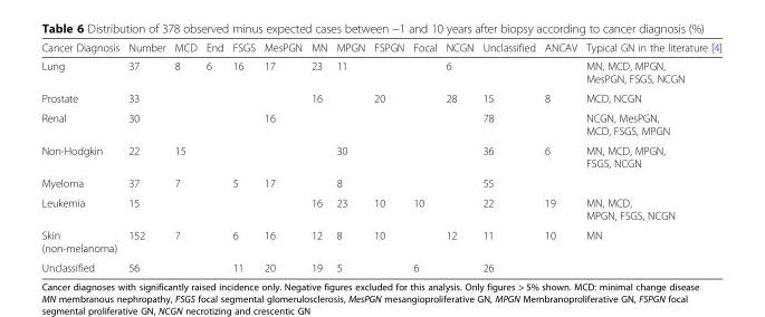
<table><thead><tr><td>Cancer Diagnosis</td><td>Number</td><td>MCD</td><td>End</td><td>FSGS</td><td>MesPGN</td><td>MN</td><td>MPGN</td><td>FSPGN</td><td>Focal</td><td>NCGN</td><td>Unclassified</td><td>ANCAV</td><td>Typical GN in the literature [4]</td></tr></thead><tbody><tr><td>Lung</td><td>37</td><td>8</td><td>6</td><td>16</td><td>17</td><td>23</td><td>11</td><td></td><td></td><td>6</td><td></td><td></td><td>MN, MCD, MPGN, MesPGN, FSGS, NCGN</td></tr><tr><td>Prostate</td><td>33</td><td></td><td></td><td></td><td></td><td>16</td><td></td><td>20</td><td></td><td>28</td><td>15</td><td>8</td><td>MCD, NCGN</td></tr><tr><td>Renal</td><td>30</td><td></td><td></td><td></td><td>16</td><td></td><td></td><td></td><td></td><td></td><td>78</td><td></td><td>NCGN, MesPGN, MCD, FSGS, MPGN</td></tr><tr><td>Non-Hodgkin</td><td>22</td><td>15</td><td></td><td></td><td></td><td></td><td>30</td><td></td><td></td><td></td><td>36</td><td>6</td><td>MN, MCD, MPGN, FSGS, NCGN</td></tr><tr><td>Myeloma</td><td>37</td><td>7</td><td></td><td>5</td><td>17</td><td></td><td>8</td><td></td><td></td><td></td><td>55</td><td></td><td></td></tr><tr><td>Leukemia</td><td>15</td><td></td><td></td><td></td><td></td><td>16</td><td>23</td><td>10</td><td>10</td><td></td><td>22</td><td>19</td><td>MN, MCD, MPGN, FSGS, NCGN</td></tr><tr><td>Skin (non-melanoma)</td><td>152</td><td>7</td><td></td><td>6</td><td>16</td><td>12</td><td>8</td><td>10</td><td></td><td>12</td><td>11</td><td>10</td><td>MN</td></tr><tr><td>Unclassified</td><td>56</td><td></td><td></td><td>11</td><td>20</td><td>19</td><td>5</td><td></td><td>6</td><td></td><td>26</td><td></td><td></td></tr></tbody></table>